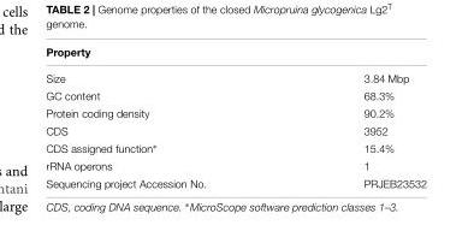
<table><thead><tr><td>Property</td><td></td></tr></thead><tbody><tr><td>Size</td><td>3.84 Mbp</td></tr><tr><td>GC content</td><td>68.3%</td></tr><tr><td>Protein coding density</td><td>90.2%</td></tr><tr><td>CDS</td><td>3952</td></tr><tr><td>CDS assigned function∗</td><td>15.4%</td></tr><tr><td>rRNA operons</td><td>1</td></tr><tr><td>Sequencing project Accession No.</td><td>PRJEB23532</td></tr></tbody></table>